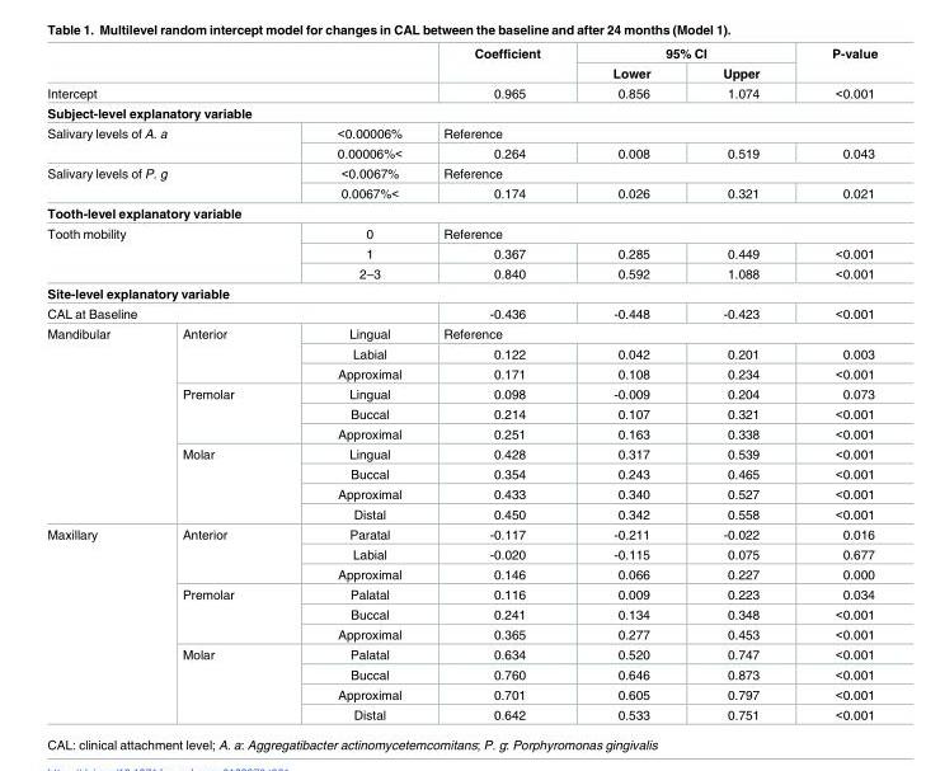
<table><thead><tr><td rowspan="2"></td><td rowspan="2"></td><td rowspan="2"></td><td rowspan="2">Coefficient</td><td colspan="2">95% CI</td><td rowspan="2">P-value</td></tr><tr><td>Lower</td><td>Upper</td></tr></thead><tbody><tr><td colspan="3">Intercept</td><td>0.965</td><td>0.856</td><td>1.074</td><td>&lt;0.001</td></tr><tr><td colspan="7">Subject-level explanatory variable</td></tr><tr><td rowspan="2" colspan="2">Salivary levels of A. a</td><td>&lt;0.00006%</td><td colspan="4">Reference</td></tr><tr><td>0.00006%&lt;</td><td>0.264</td><td>0.008</td><td>0.519</td><td>0.043</td></tr><tr><td rowspan="2" colspan="2">Salivary levels of P. g</td><td>&lt;0.0067%</td><td colspan="4">Reference</td></tr><tr><td>0.0067%&lt;</td><td>0.174</td><td>0.026</td><td>0.321</td><td>0.021</td></tr><tr><td colspan="7">Tooth-level explanatory variable</td></tr><tr><td rowspan="3" colspan="2">Tooth mobility</td><td>0</td><td colspan="4">Reference</td></tr><tr><td>1</td><td>0.367</td><td>0.285</td><td>0.449</td><td>&lt;0.001</td></tr><tr><td>2–3</td><td>0.840</td><td>0.592</td><td>1.088</td><td>&lt;0.001</td></tr><tr><td colspan="7">Site-level explanatory variable</td></tr><tr><td colspan="3">CAL at Baseline</td><td>-0.436</td><td>-0.448</td><td>-0.423</td><td>&lt;0.001</td></tr><tr><td rowspan="10">Mandibular</td><td rowspan="3">Anterior</td><td>Lingual</td><td colspan="4">Reference</td></tr><tr><td>Labial</td><td>0.122</td><td>0.042</td><td>0.201</td><td>0.003</td></tr><tr><td>Approximal</td><td>0.171</td><td>0.108</td><td>0.234</td><td>&lt;0.001</td></tr><tr><td rowspan="3">Premolar</td><td>Lingual</td><td>0.098</td><td>-0.009</td><td>0.204</td><td>0.073</td></tr><tr><td>Buccal</td><td>0.214</td><td>0.107</td><td>0.321</td><td>&lt;0.001</td></tr><tr><td>Approximal</td><td>0.251</td><td>0.163</td><td>0.338</td><td>&lt;0.001</td></tr><tr><td rowspan="4">Molar</td><td>Lingual</td><td>0.428</td><td>0.317</td><td>0.539</td><td>&lt;0.001</td></tr><tr><td>Buccal</td><td>0.354</td><td>0.243</td><td>0.465</td><td>&lt;0.001</td></tr><tr><td>Approximal</td><td>0.433</td><td>0.340</td><td>0.527</td><td>&lt;0.001</td></tr><tr><td>Distal</td><td>0.450</td><td>0.342</td><td>0.558</td><td>&lt;0.001</td></tr><tr><td rowspan="10">Maxillary</td><td rowspan="3">Anterior</td><td>Paratal</td><td>-0.117</td><td>-0.211</td><td>-0.022</td><td>0.016</td></tr><tr><td>Labial</td><td>-0.020</td><td>-0.115</td><td>0.075</td><td>0.677</td></tr><tr><td>Approximal</td><td>0.146</td><td>0.066</td><td>0.227</td><td>0.000</td></tr><tr><td rowspan="3">Premolar</td><td>Palatal</td><td>0.116</td><td>0.009</td><td>0.223</td><td>0.034</td></tr><tr><td>Buccal</td><td>0.241</td><td>0.134</td><td>0.348</td><td>&lt;0.001</td></tr><tr><td>Approximal</td><td>0.365</td><td>0.277</td><td>0.453</td><td>&lt;0.001</td></tr><tr><td rowspan="4">Molar</td><td>Palatal</td><td>0.634</td><td>0.520</td><td>0.747</td><td>&lt;0.001</td></tr><tr><td>Buccal</td><td>0.760</td><td>0.646</td><td>0.873</td><td>&lt;0.001</td></tr><tr><td>Approximal</td><td>0.701</td><td>0.605</td><td>0.797</td><td>&lt;0.001</td></tr><tr><td>Distal</td><td>0.642</td><td>0.533</td><td>0.751</td><td>&lt;0.001</td></tr></tbody></table>